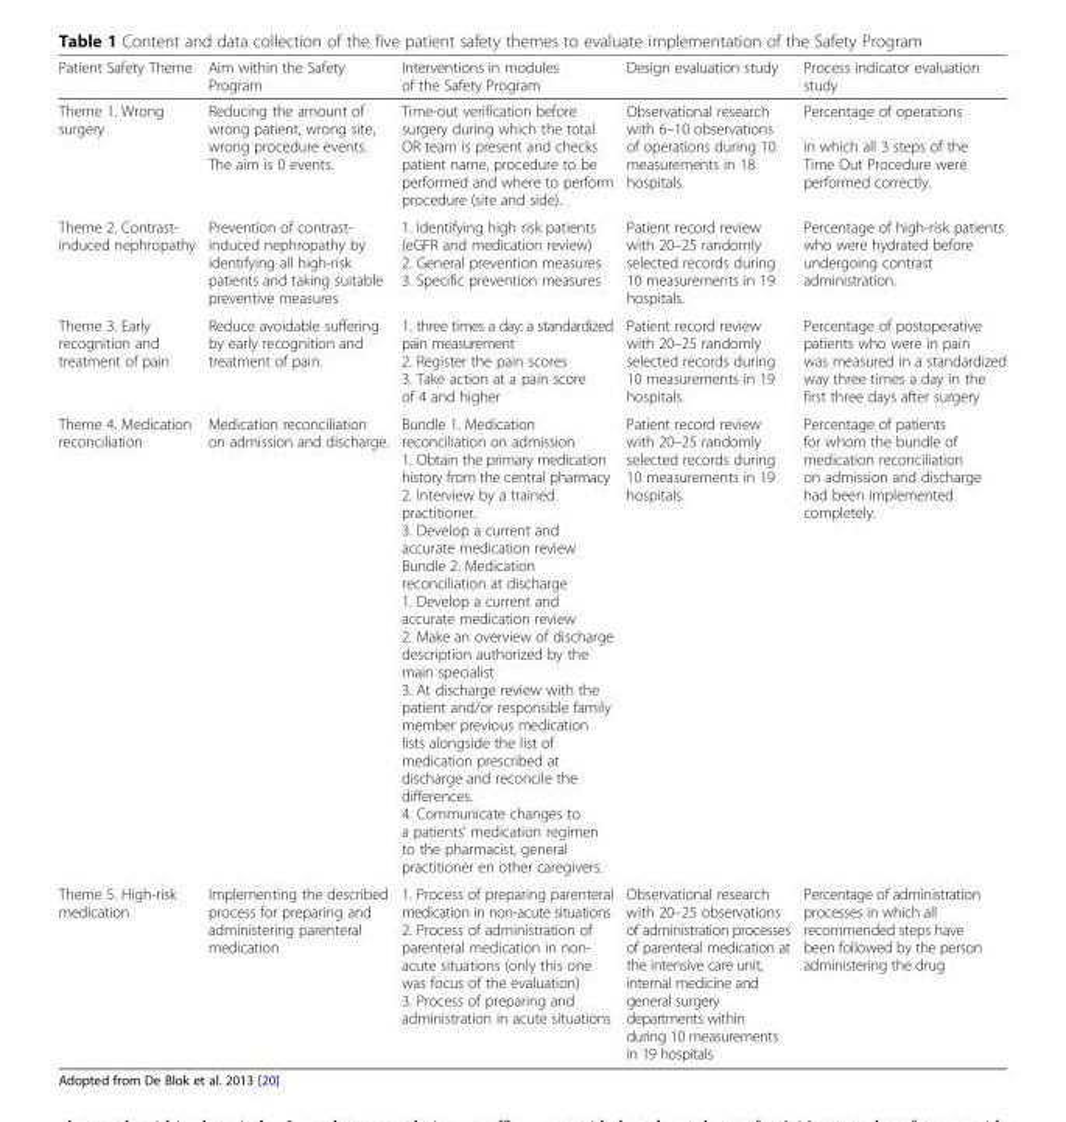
<table><thead><tr><td>Patient Safety Theme</td><td>Aim within the Safety Program</td><td>Interventions in modules of the Safety Program</td><td>Design evaluation study</td><td>Process indicator evaluation study</td></tr></thead><tbody><tr><td>Theme 1. Wrong surgery</td><td>Reducing the amount of wrong patient, wrong site, wrong procedure events. The aim is 0 events.</td><td>Time-out verification before surgery during which the total OR team is present and checks patient name, procedure to be performed and where to perform procedure (site and side).</td><td>Observational research with 6–10 observations of operations during 10 measurements in 18 hospitals.</td><td>Percentage of operations in which all 3 steps of the Time Out Procedure were performed correctly.</td></tr><tr><td>Theme 2. Contrast- induced nephropathy</td><td>Prevention of contrast- induced nephropathy by identifying all high-risk patients and taking suitable preventive measures</td><td>1. Identifying high risk patients (eGFR and medication review) 2. General prevention measures 3. Specific prevention measures</td><td>Patient record review with 20–25 randomly selected records during 10 measurements in 19 hospitals.</td><td>Percentage of high-risk patients who were hydrated before undergoing contrast administration.</td></tr><tr><td>Theme 3. Early recognition and treatment of pain</td><td>Reduce avoidable suffering by early recognition and treatment of pain.</td><td>1. three times a day: a standardized pain measurement 2. Register the pain scores 3. Take action at a pain score of 4 and higher</td><td>Patient record review with 20–25 randomly selected records during 10 measurements in 19 hospitals.</td><td>Percentage of postoperative patients who were in pain was measured in a standardized way three times a day in the first three days after surgery</td></tr><tr><td>Theme 4. Medication reconciliation</td><td>Medication reconciliation on admission and discharge.</td><td>Bundle 1. Medication reconciliation on admission 1. Obtain the primary medication history from the central pharmacy 2. Interview by a trained practitioner. 3. Develop a current and accurate medication review Bundle 2. Medication reconciliation at discharge 1. Develop a current and accurate medication review 2. Make an overview of discharge description authorized by the main specialist 3. At discharge review with the patient and/or responsible family member previous medication lists alongside the list of medication prescribed at discharge and reconcile the differences. 4. Communicate changes to a patients’ medication regimen to the pharmacist, general practitioner en other caregivers.</td><td>Patient record review with 20–25 randomly selected records during 10 measurements in 19 hospitals.</td><td>Percentage of patients for whom the bundle of medication reconciliation on admission and discharge had been implemented completely.</td></tr><tr><td>Theme 5. High-risk medication</td><td>Implementing the described process for preparing and administering parenteral medication</td><td>1. Process of preparing parenteral medication in non-acute situations 2. Process of administration of parenteral medication in non- acute situations (only this one was focus of the evaluation) 3. Process of preparing and administration in acute situations</td><td>Observational research with 20–25 observations of administration processes of parenteral medication at the intensive care unit, internal medicine and general surgery departments within during 10 measurements in 19 hospitals</td><td>Percentage of administration processes in which all recommended steps have been followed by the person administering the drug</td></tr></tbody></table>